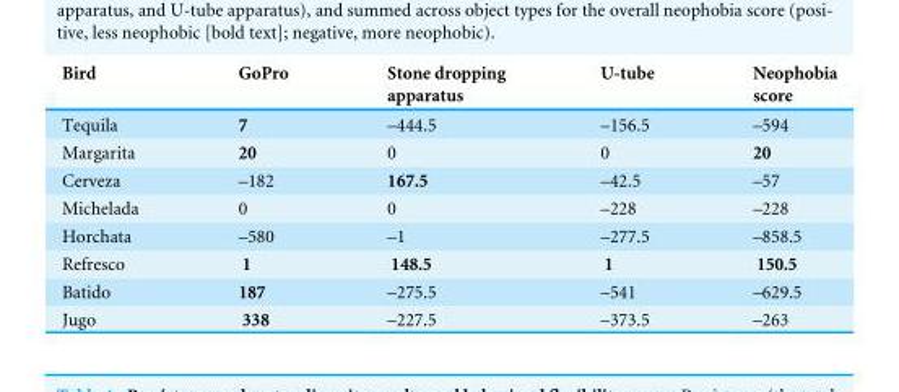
<table><thead><tr><td>Bird</td><td>GoPro</td><td>Stone dropping apparatus</td><td>U-tube</td><td>Neophobia score</td></tr></thead><tbody><tr><td>Tequila</td><td>7</td><td>–444.5</td><td>–156.5</td><td>–594</td></tr><tr><td>Margarita</td><td>20</td><td>0</td><td>0</td><td>20</td></tr><tr><td>Cerveza</td><td>–182</td><td>167.5</td><td>–42.5</td><td>–57</td></tr><tr><td>Michelada</td><td>0</td><td>0</td><td>–228</td><td>–228</td></tr><tr><td>Horchata</td><td>–580</td><td>–1</td><td>–277.5</td><td>–858.5</td></tr><tr><td>Refresco</td><td>1</td><td>148.5</td><td>1</td><td>150.5</td></tr><tr><td>Batido</td><td>187</td><td>–275.5</td><td>–541</td><td>–629.5</td></tr><tr><td>Jugo</td><td>338</td><td>–227.5</td><td>–373.5</td><td>–263</td></tr></tbody></table>